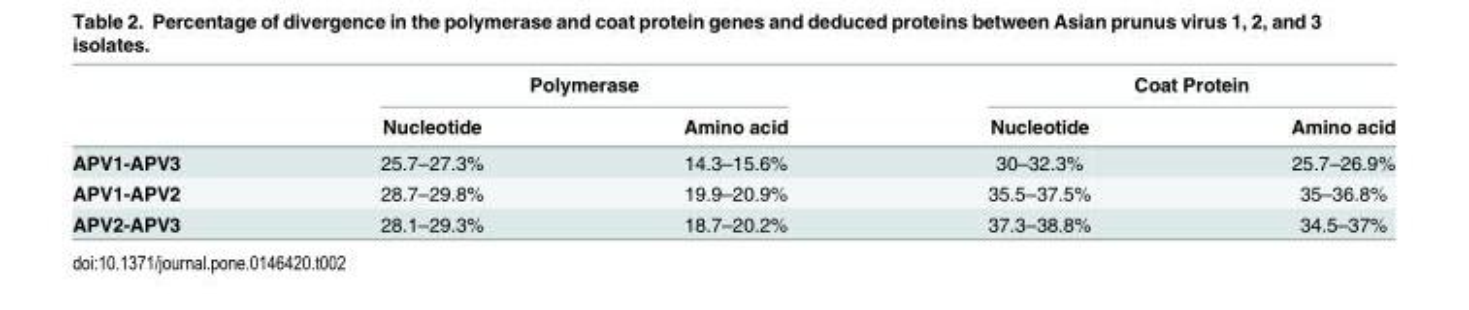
<table><thead><tr><td rowspan="2"></td><td colspan="2">Polymerase</td><td colspan="2">Coat Protein</td></tr><tr><td>Nucleotide</td><td>Amino acid</td><td>Nucleotide</td><td>Amino acid</td></tr></thead><tbody><tr><td>APV1-APV3</td><td>25.7–27.3%</td><td>14.3–15.6%</td><td>30–32.3%</td><td>25.7–26.9%</td></tr><tr><td>APV1-APV2</td><td>28.7–29.8%</td><td>19.9–20.9%</td><td>35.5–37.5%</td><td>35–36.8%</td></tr><tr><td>APV2-APV3</td><td>28.1–29.3%</td><td>18.7–20.2%</td><td>37.3–38.8%</td><td>34.5–37%</td></tr></tbody></table>